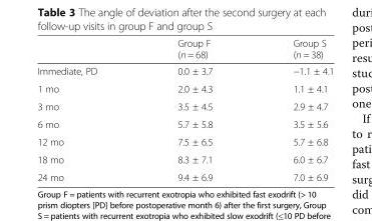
<table><thead><tr><td></td><td>Group F (n = 68)</td><td>Group S (n = 38)</td></tr></thead><tbody><tr><td>Immediate, PD</td><td>0.0 ± 3.7</td><td>−1.1 ± 4.1</td></tr><tr><td>1 mo</td><td>2.0 ± 4.3</td><td>1.1 ± 4.1</td></tr><tr><td>3 mo</td><td>3.5 ± 4.5</td><td>2.9 ± 4.7</td></tr><tr><td>6 mo</td><td>5.7 ± 5.8</td><td>3.5 ± 5.6</td></tr><tr><td>12 mo</td><td>7.5 ± 6.5</td><td>5.7 ± 6.8</td></tr><tr><td>18 mo</td><td>8.3 ± 7.1</td><td>6.0 ± 6.7</td></tr><tr><td>24 mo</td><td>9.4 ± 6.9</td><td>7.0 ± 6.9</td></tr></tbody></table>